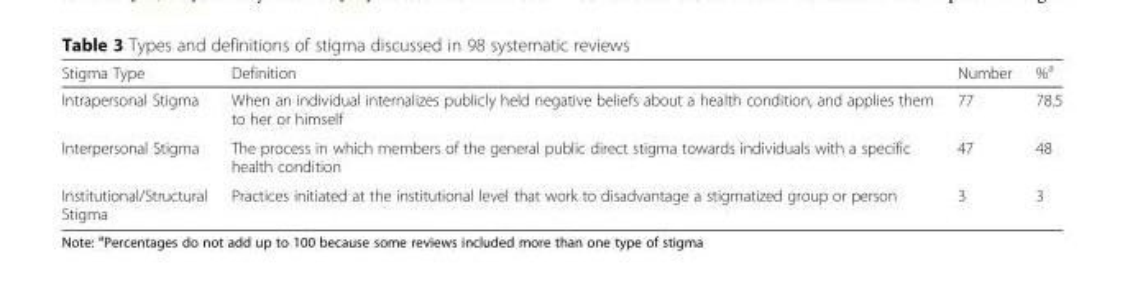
<table><thead><tr><td>Stigma Type</td><td>Definition</td><td>Number</td><td>%<sup>a</sup></td></tr></thead><tbody><tr><td>Intrapersonal Stigma</td><td>When an individual internalizes publicly held negative beliefs about a health condition, and applies them to her or himself</td><td>77</td><td>78.5</td></tr><tr><td>Interpersonal Stigma</td><td>The process in which members of the general public direct stigma towards individuals with a specific health condition</td><td>47</td><td>48</td></tr><tr><td>Institutional/Structural Stigma</td><td>Practices initiated at the institutional level that work to disadvantage a stigmatized group or person</td><td>3</td><td>3</td></tr></tbody></table>